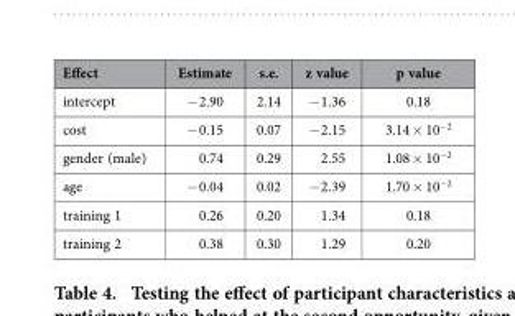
<table><thead><tr><td>Effect</td><td>Estimate</td><td>s.e.</td><td>z value</td><td>p value</td></tr></thead><tbody><tr><td>intercept</td><td>− 2.90</td><td>2.14</td><td>− 1.36</td><td>0.18</td></tr><tr><td>cost</td><td>− 0.15</td><td>0.07</td><td>− 2.15</td><td>3.14 × 10<sup>−2</sup></td></tr><tr><td>gender (male)</td><td>0.74</td><td>0.29</td><td>2.55</td><td>1.08 × 10<sup>−2</sup></td></tr><tr><td>age</td><td>− 0.04</td><td>0.02</td><td>− 2.39</td><td>1.70 × 10<sup>−2</sup></td></tr><tr><td>training 1</td><td>0.26</td><td>0.20</td><td>1.34</td><td>0.18</td></tr><tr><td>training 2</td><td>0.38</td><td>0.30</td><td>1.29</td><td>0.20</td></tr></tbody></table>